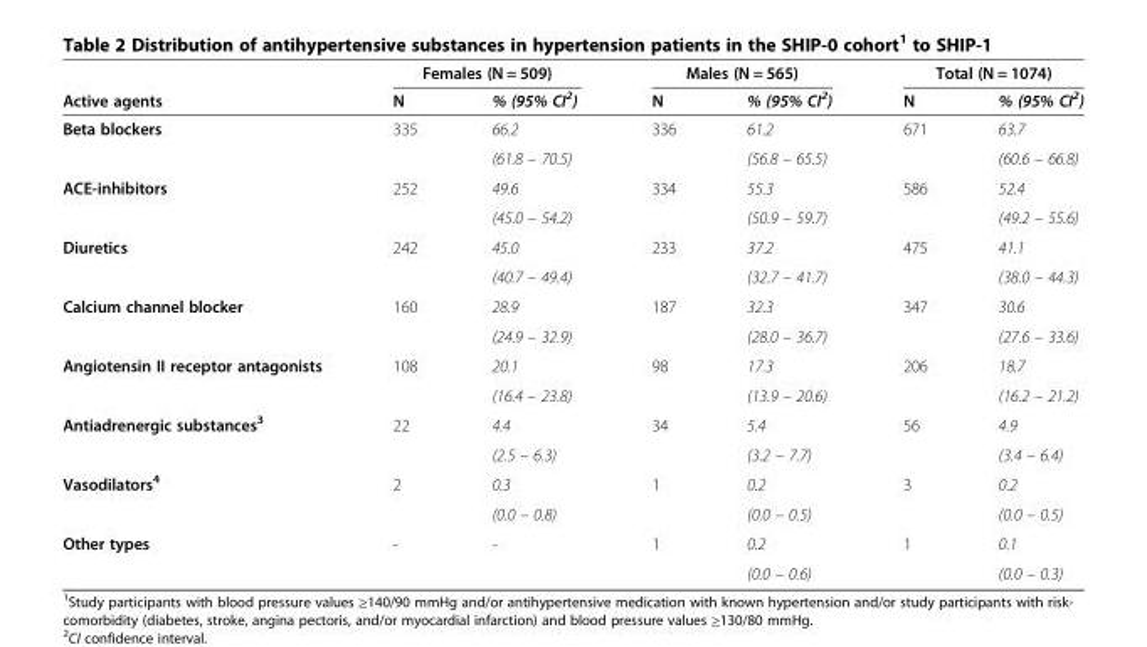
<table><thead><tr><td rowspan="2">Active agents</td><td colspan="2">Females (N = 509)</td><td colspan="2">Males (N = 565)</td><td colspan="2">Total (N = 1074)</td></tr><tr><td>N</td><td>% (95% CI<sup>2</sup>)</td><td>N</td><td>% (95% CI<sup>2</sup>)</td><td>N</td><td>% (95% CI<sup>2</sup>)</td></tr></thead><tbody><tr><td rowspan="2">Beta blockers</td><td rowspan="2">335</td><td>66.2</td><td rowspan="2">336</td><td>61.2</td><td rowspan="2">671</td><td>63.7</td></tr><tr><td>(61.8 – 70.5)</td><td>(56.8 – 65.5)</td><td>(60.6 – 66.8)</td></tr><tr><td rowspan="2">ACE-inhibitors</td><td rowspan="2">252</td><td>49.6</td><td rowspan="2">334</td><td>55.3</td><td rowspan="2">586</td><td>52.4</td></tr><tr><td>(45.0 – 54.2)</td><td>(50.9 – 59.7)</td><td>(49.2 – 55.6)</td></tr><tr><td rowspan="2">Diuretics</td><td rowspan="2">242</td><td>45.0</td><td rowspan="2">233</td><td>37.2</td><td rowspan="2">475</td><td>41.1</td></tr><tr><td>(40.7 – 49.4)</td><td>(32.7 – 41.7)</td><td>(38.0 – 44.3)</td></tr><tr><td rowspan="2">Calcium channel blocker</td><td rowspan="2">160</td><td>28.9</td><td rowspan="2">187</td><td>32.3</td><td rowspan="2">347</td><td>30.6</td></tr><tr><td>(24.9 – 32.9)</td><td>(28.0 – 36.7)</td><td>(27.6 – 33.6)</td></tr><tr><td rowspan="2">Angiotensin II receptor antagonists</td><td rowspan="2">108</td><td>20.1</td><td rowspan="2">98</td><td>17.3</td><td rowspan="2">206</td><td>18.7</td></tr><tr><td>(16.4 – 23.8)</td><td>(13.9 – 20.6)</td><td>(16.2 – 21.2)</td></tr><tr><td rowspan="2">Antiadrenergic substances<sup>3</sup></td><td rowspan="2">22</td><td>4.4</td><td rowspan="2">34</td><td>5.4</td><td rowspan="2">56</td><td>4.9</td></tr><tr><td>(2.5 – 6.3)</td><td>(3.2 – 7.7)</td><td>(3.4 – 6.4)</td></tr><tr><td rowspan="2">Vasodilators<sup>4</sup></td><td rowspan="2">2</td><td>0.3</td><td rowspan="2">1</td><td>0.2</td><td rowspan="2">3</td><td>0.2</td></tr><tr><td>(0.0 – 0.8)</td><td>(0.0 – 0.5)</td><td>(0.0 – 0.5)</td></tr><tr><td rowspan="2">Other types</td><td>-</td><td>-</td><td>1</td><td>0.2</td><td>1</td><td>0.1</td></tr><tr><td></td><td></td><td></td><td>(0.0 – 0.6)</td><td></td><td>(0.0 – 0.3)</td></tr></tbody></table>